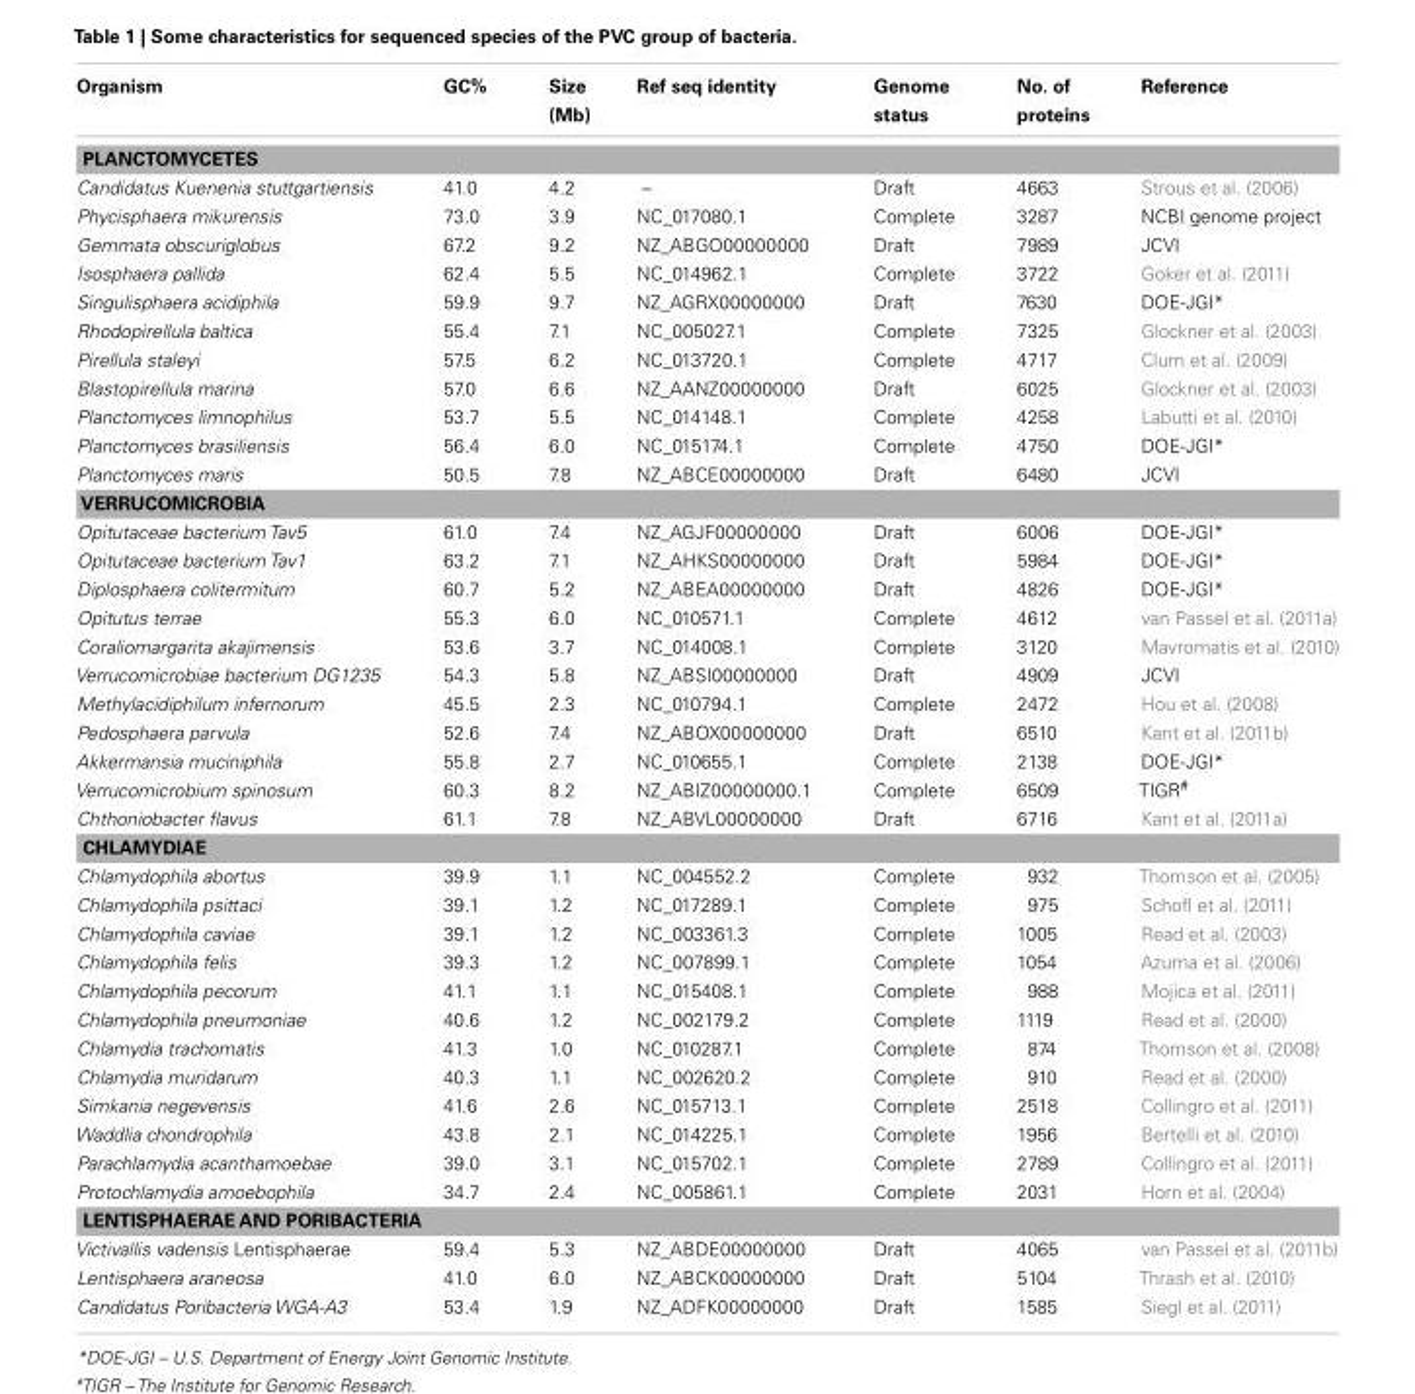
<table><thead><tr><td>Organism</td><td>GC%</td><td>Size (Mb)</td><td>Ref seq identity</td><td>Genome status</td><td>No. of proteins</td><td>Reference</td></tr></thead><tbody><tr><td colspan="7">PLANCTOMYCETES</td></tr><tr><td>Candidatus Kuenenia stuttgartiensis</td><td>41.0</td><td>4.2</td><td>–</td><td>Draft</td><td>4663</td><td>Strous et al. (2006)</td></tr><tr><td>Phycisphaera mikurensis</td><td>73.0</td><td>3.9</td><td>NC_017080.1</td><td>Complete</td><td>3287</td><td>NCBI genome project</td></tr><tr><td>Gemmata obscuriglobus</td><td>67.2</td><td>9.2</td><td>NZ_ABGO00000000</td><td>Draft</td><td>7989</td><td>JCVI</td></tr><tr><td>Isosphaera pallida</td><td>62.4</td><td>5.5</td><td>NC_014962.1</td><td>Complete</td><td>3722</td><td>Goker et al. (2011)</td></tr><tr><td>Singulisphaera acidiphila</td><td>59.9</td><td>9.7</td><td>NZ_AGRX00000000</td><td>Draft</td><td>7630</td><td>DOE-JGI*</td></tr><tr><td>Rhodopirellula baltica</td><td>55.4</td><td>7.1</td><td>NC_005027.1</td><td>Complete</td><td>7325</td><td>Glockner et al. (2003)</td></tr><tr><td>Pirellula staleyi</td><td>57.5</td><td>6.2</td><td>NC_013720.1</td><td>Complete</td><td>4717</td><td>Clum et al. (2009)</td></tr><tr><td>Blastopirellula marina</td><td>57.0</td><td>6.6</td><td>NZ_AANZ00000000</td><td>Draft</td><td>6025</td><td>Glockner et al. (2003)</td></tr><tr><td>Planctomyces limnophilus</td><td>53.7</td><td>5.5</td><td>NC_014148.1</td><td>Complete</td><td>4258</td><td>Labutti et al. (2010)</td></tr><tr><td>Planctomyces brasiliensis</td><td>56.4</td><td>6.0</td><td>NC_015174.1</td><td>Complete</td><td>4750</td><td>DOE-JGI*</td></tr><tr><td>Planctomyces maris</td><td>50.5</td><td>7.8</td><td>NZ_ABCE00000000</td><td>Draft</td><td>6480</td><td>JCVI</td></tr><tr><td colspan="7">VERRUCOMICROBIA</td></tr><tr><td>Opitutaceae bacterium Tav5</td><td>61.0</td><td>7.4</td><td>NZ_AGJF00000000</td><td>Draft</td><td>6006</td><td>DOE-JGI*</td></tr><tr><td>Opitutaceae bacterium Tav1</td><td>63.2</td><td>7.1</td><td>NZ_AHKS00000000</td><td>Draft</td><td>5984</td><td>DOE-JGI*</td></tr><tr><td>Diplosphaera colitermitum</td><td>60.7</td><td>5.2</td><td>NZ_ABEA00000000</td><td>Draft</td><td>4826</td><td>DOE-JGI*</td></tr><tr><td>Opitutus terrae</td><td>55.3</td><td>6.0</td><td>NC_010571.1</td><td>Complete</td><td>4612</td><td>van Passel et al. (2011a)</td></tr><tr><td>Coraliomargarita akajimensis</td><td>53.6</td><td>3.7</td><td>NC_014008.1</td><td>Complete</td><td>3120</td><td>Mavromatis et al. (2010)</td></tr><tr><td>Verrucomicrobiae bacterium DG1235</td><td>54.3</td><td>5.8</td><td>NZ_ABSI00000000</td><td>Draft</td><td>4909</td><td>JCVI</td></tr><tr><td>Methylacidiphilum infernorum</td><td>45.5</td><td>2.3</td><td>NC_010794.1</td><td>Complete</td><td>2472</td><td>Hou et al. (2008)</td></tr><tr><td>Pedosphaera parvula</td><td>52.6</td><td>7.4</td><td>NZ_ABOX00000000</td><td>Draft</td><td>6510</td><td>Kant et al. (2011b)</td></tr><tr><td>Akkermansia muciniphila</td><td>55.8</td><td>2.7</td><td>NC_010655.1</td><td>Complete</td><td>2138</td><td>DOE-JGI*</td></tr><tr><td>Verrucomicrobium spinosum</td><td>60.3</td><td>8.2</td><td>NZ_ABIZ00000000.1</td><td>Complete</td><td>6509</td><td>TIGR<sup>#</sup></td></tr><tr><td>Chthoniobacter flavus</td><td>61.1</td><td>7.8</td><td>NZ_ABVL00000000</td><td>Draft</td><td>6716</td><td>Kant et al. (2011a)</td></tr><tr><td colspan="7">CHLAMYDIAE</td></tr><tr><td>Chlamydophila abortus</td><td>39.9</td><td>1.1</td><td>NC_004552.2</td><td>Complete</td><td>932</td><td>Thomson et al. (2005)</td></tr><tr><td>Chlamydophila psittaci</td><td>39.1</td><td>1.2</td><td>NC_017289.1</td><td>Complete</td><td>975</td><td>Schofl et al. (2011)</td></tr><tr><td>Chlamydophila caviae</td><td>39.1</td><td>1.2</td><td>NC_003361.3</td><td>Complete</td><td>1005</td><td>Read et al. (2003)</td></tr><tr><td>Chlamydophila felis</td><td>39.3</td><td>1.2</td><td>NC_007899.1</td><td>Complete</td><td>1054</td><td>Azuma et al. (2006)</td></tr><tr><td>Chlamydophila pecorum</td><td>41.1</td><td>1.1</td><td>NC_015408.1</td><td>Complete</td><td>988</td><td>Mojica et al. (2011)</td></tr><tr><td>Chlamydophila pneumoniae</td><td>40.6</td><td>1.2</td><td>NC_002179.2</td><td>Complete</td><td>1119</td><td>Read et al. (2000)</td></tr><tr><td>Chlamydia trachomatis</td><td>41.3</td><td>1.0</td><td>NC_010287.1</td><td>Complete</td><td>874</td><td>Thomson et al. (2008)</td></tr><tr><td>Chlamydia muridarum</td><td>40.3</td><td>1.1</td><td>NC_002620.2</td><td>Complete</td><td>910</td><td>Read et al. (2000)</td></tr><tr><td>Simkania negevensis</td><td>41.6</td><td>2.6</td><td>NC_015713.1</td><td>Complete</td><td>2518</td><td>Collingro et al. (2011)</td></tr><tr><td>Waddlia chondrophila</td><td>43.8</td><td>2.1</td><td>NC_014225.1</td><td>Complete</td><td>1956</td><td>Bertelli et al. (2010)</td></tr><tr><td>Parachlamydia acanthamoebae</td><td>39.0</td><td>3.1</td><td>NC_015702.1</td><td>Complete</td><td>2789</td><td>Collingro et al. (2011)</td></tr><tr><td>Protochlamydia amoebophila</td><td>34.7</td><td>2.4</td><td>NC_005861.1</td><td>Complete</td><td>2031</td><td>Horn et al. (2004)</td></tr><tr><td colspan="7">LENTISPHAERAE AND PORIBACTERIA</td></tr><tr><td>Victivallis vadensis Lentisphaerae</td><td>59.4</td><td>5.3</td><td>NZ_ABDE00000000</td><td>Draft</td><td>4065</td><td>van Passel et al. (2011b)</td></tr><tr><td>Lentisphaera araneosa</td><td>41.0</td><td>6.0</td><td>NZ_ABCK00000000</td><td>Draft</td><td>5104</td><td>Thrash et al. (2010)</td></tr><tr><td>Candidatus Poribacteria WGA-A3</td><td>53.4</td><td>1.9</td><td>NZ_ADFK00000000</td><td>Draft</td><td>1585</td><td>Siegl et al. (2011)</td></tr></tbody></table>